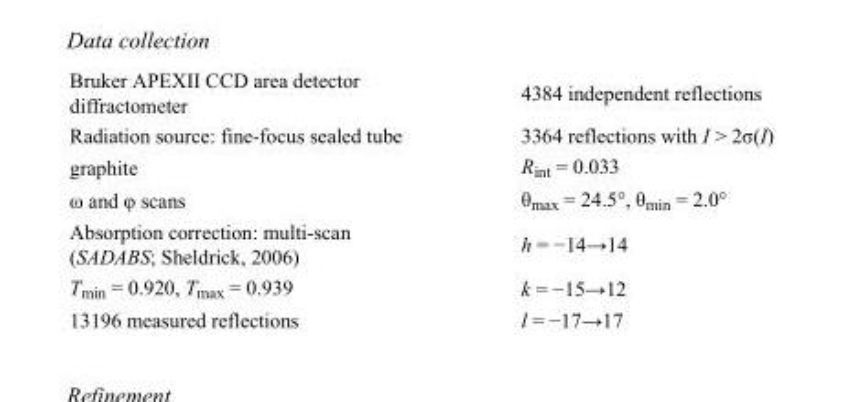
<table><tbody><tr><td>Bruker APEXII CCD area detector diffractometer</td><td>4384 independent reflections</td></tr><tr><td>Radiation source: fine-focus sealed tube</td><td>3364 reflections with I &gt; 2σ(I)</td></tr><tr><td>graphite</td><td>R<sub>int</sub> = 0.033</td></tr><tr><td>ω and φ scans</td><td>θ<sub>max</sub> = 24.5°, θ<sub>min</sub> = 2.0°</td></tr><tr><td>Absorption correction: multi-scan (SADABS; Sheldrick, 2006)</td><td>h = −14→14</td></tr><tr><td>T<sub>min</sub> = 0.920, T<sub>max</sub> = 0.939</td><td>k = −15→12</td></tr><tr><td>13196 measured reflections</td><td>l = −17→17</td></tr></tbody></table>